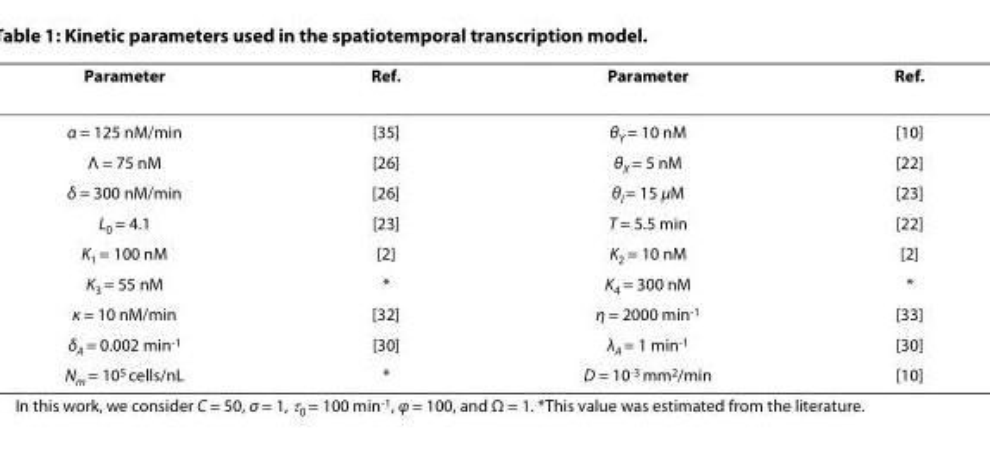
<table><thead><tr><td>Parameter</td><td>Ref.</td><td>Parameter</td><td>Ref.</td></tr></thead><tbody><tr><td>α = 125 nM/min</td><td>[35]</td><td>θ<sub>Y</sub> = 10 nM</td><td>[10]</td></tr><tr><td>Λ = 75 nM</td><td>[26]</td><td>θ<sub>X</sub> = 5 nM</td><td>[22]</td></tr><tr><td>δ = 300 nM/min</td><td>[26]</td><td>θ<sub>I</sub> = 15 μM</td><td>[23]</td></tr><tr><td>L<sub>0</sub> = 4.1</td><td>[23]</td><td>T = 5.5 min</td><td>[22]</td></tr><tr><td>K<sub>1</sub> = 100 nM</td><td>[2]</td><td>K<sub>2</sub> = 10 nM</td><td>[2]</td></tr><tr><td>K<sub>3</sub> = 55 nM</td><td>*</td><td>K<sub>4</sub> = 300 nM</td><td>*</td></tr><tr><td>κ = 10 nM/min</td><td>[32]</td><td>η = 2000 min<sup>-1</sup></td><td>[33]</td></tr><tr><td>δ<sub>A</sub> = 0.002 min<sup>-1</sup></td><td>[30]</td><td>λ<sub>A</sub> = 1 min<sup>-1</sup></td><td>[30]</td></tr><tr><td>N<sub>m</sub> = 10<sup>5</sup> cells/nL</td><td>*</td><td>D = 10<sup>-3</sup> mm<sup>2</sup>/min</td><td>[10]</td></tr></tbody></table>